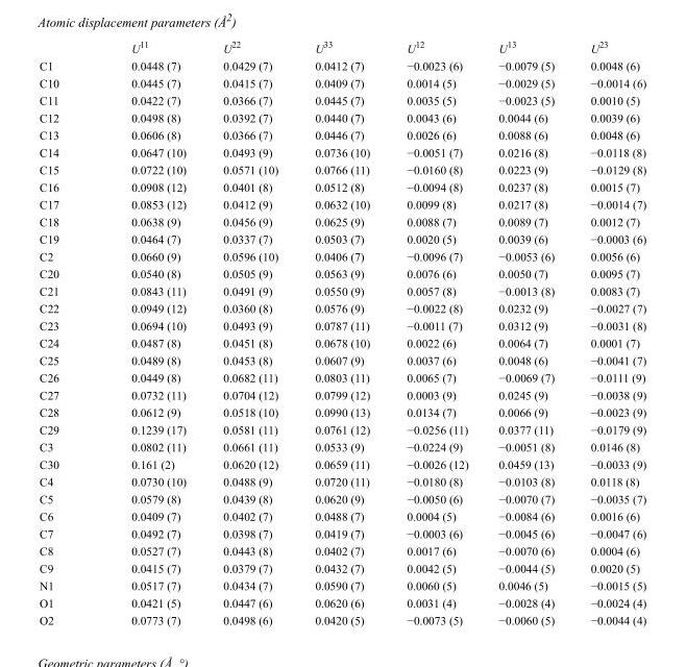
<table><thead><tr><td></td><td>U<sup>11</sup></td><td>U<sup>22</sup></td><td>U<sup>33</sup></td><td>U<sup>12</sup></td><td>U<sup>13</sup></td><td>U<sup>23</sup></td></tr></thead><tbody><tr><td>C1</td><td>0.0448 (7)</td><td>0.0429 (7)</td><td>0.0412 (7)</td><td>−0.0023 (6)</td><td>−0.0079 (5)</td><td>0.0048 (6)</td></tr><tr><td>C10</td><td>0.0445 (7)</td><td>0.0415 (7)</td><td>0.0409 (7)</td><td>0.0014 (5)</td><td>−0.0029 (5)</td><td>−0.0014 (6)</td></tr><tr><td>C11</td><td>0.0422 (7)</td><td>0.0366 (7)</td><td>0.0445 (7)</td><td>0.0035 (5)</td><td>−0.0023 (5)</td><td>0.0010 (5)</td></tr><tr><td>C12</td><td>0.0498 (8)</td><td>0.0392 (7)</td><td>0.0440 (7)</td><td>0.0043 (6)</td><td>0.0044 (6)</td><td>0.0039 (6)</td></tr><tr><td>C13</td><td>0.0606 (8)</td><td>0.0366 (7)</td><td>0.0446 (7)</td><td>0.0026 (6)</td><td>0.0088 (6)</td><td>0.0048 (6)</td></tr><tr><td>C14</td><td>0.0647 (10)</td><td>0.0493 (9)</td><td>0.0736 (10)</td><td>−0.0051 (7)</td><td>0.0216 (8)</td><td>−0.0118 (8)</td></tr><tr><td>C15</td><td>0.0722 (10)</td><td>0.0571 (10)</td><td>0.0766 (11)</td><td>−0.0160 (8)</td><td>0.0223 (9)</td><td>−0.0129 (8)</td></tr><tr><td>C16</td><td>0.0908 (12)</td><td>0.0401 (8)</td><td>0.0512 (8)</td><td>−0.0094 (8)</td><td>0.0237 (8)</td><td>0.0015 (7)</td></tr><tr><td>C17</td><td>0.0853 (12)</td><td>0.0412 (9)</td><td>0.0632 (10)</td><td>0.0099 (8)</td><td>0.0217 (8)</td><td>−0.0014 (7)</td></tr><tr><td>C18</td><td>0.0638 (9)</td><td>0.0456 (9)</td><td>0.0625 (9)</td><td>0.0088 (7)</td><td>0.0089 (7)</td><td>0.0012 (7)</td></tr><tr><td>C19</td><td>0.0464 (7)</td><td>0.0337 (7)</td><td>0.0503 (7)</td><td>0.0020 (5)</td><td>0.0039 (6)</td><td>−0.0003 (6)</td></tr><tr><td>C2</td><td>0.0660 (9)</td><td>0.0596 (10)</td><td>0.0406 (7)</td><td>−0.0096 (7)</td><td>−0.0053 (6)</td><td>0.0056 (6)</td></tr><tr><td>C20</td><td>0.0540 (8)</td><td>0.0505 (9)</td><td>0.0563 (9)</td><td>0.0076 (6)</td><td>0.0050 (7)</td><td>0.0095 (7)</td></tr><tr><td>C21</td><td>0.0843 (11)</td><td>0.0491 (9)</td><td>0.0550 (9)</td><td>0.0057 (8)</td><td>−0.0013 (8)</td><td>0.0083 (7)</td></tr><tr><td>C22</td><td>0.0949 (12)</td><td>0.0360 (8)</td><td>0.0576 (9)</td><td>−0.0022 (8)</td><td>0.0232 (9)</td><td>−0.0027 (7)</td></tr><tr><td>C23</td><td>0.0694 (10)</td><td>0.0493 (9)</td><td>0.0787 (11)</td><td>−0.0011 (7)</td><td>0.0312 (9)</td><td>−0.0031 (8)</td></tr><tr><td>C24</td><td>0.0487 (8)</td><td>0.0451 (8)</td><td>0.0678 (10)</td><td>0.0022 (6)</td><td>0.0064 (7)</td><td>0.0001 (7)</td></tr><tr><td>C25</td><td>0.0489 (8)</td><td>0.0453 (8)</td><td>0.0607 (9)</td><td>0.0037 (6)</td><td>0.0048 (6)</td><td>−0.0041 (7)</td></tr><tr><td>C26</td><td>0.0449 (8)</td><td>0.0682 (11)</td><td>0.0803 (11)</td><td>0.0065 (7)</td><td>−0.0069 (7)</td><td>−0.0111 (9)</td></tr><tr><td>C27</td><td>0.0732 (11)</td><td>0.0704 (12)</td><td>0.0799 (12)</td><td>0.0003 (9)</td><td>0.0245 (9)</td><td>−0.0038 (9)</td></tr><tr><td>C28</td><td>0.0612 (9)</td><td>0.0518 (10)</td><td>0.0990 (13)</td><td>0.0134 (7)</td><td>0.0066 (9)</td><td>−0.0023 (9)</td></tr><tr><td>C29</td><td>0.1239 (17)</td><td>0.0581 (11)</td><td>0.0761 (12)</td><td>−0.0256 (11)</td><td>0.0377 (11)</td><td>−0.0179 (9)</td></tr><tr><td>C3</td><td>0.0802 (11)</td><td>0.0661 (11)</td><td>0.0533 (9)</td><td>−0.0224 (9)</td><td>−0.0051 (8)</td><td>0.0146 (8)</td></tr><tr><td>C30</td><td>0.161 (2)</td><td>0.0620 (12)</td><td>0.0659 (11)</td><td>−0.0026 (12)</td><td>0.0459 (13)</td><td>−0.0033 (9)</td></tr><tr><td>C4</td><td>0.0730 (10)</td><td>0.0488 (9)</td><td>0.0720 (11)</td><td>−0.0180 (8)</td><td>−0.0103 (8)</td><td>0.0118 (8)</td></tr><tr><td>C5</td><td>0.0579 (8)</td><td>0.0439 (8)</td><td>0.0620 (9)</td><td>−0.0050 (6)</td><td>−0.0070 (7)</td><td>−0.0035 (7)</td></tr><tr><td>C6</td><td>0.0409 (7)</td><td>0.0402 (7)</td><td>0.0488 (7)</td><td>0.0004 (5)</td><td>−0.0084 (6)</td><td>0.0016 (6)</td></tr><tr><td>C7</td><td>0.0492 (7)</td><td>0.0398 (7)</td><td>0.0419 (7)</td><td>−0.0003 (6)</td><td>−0.0045 (6)</td><td>−0.0047 (6)</td></tr><tr><td>C8</td><td>0.0527 (7)</td><td>0.0443 (8)</td><td>0.0402 (7)</td><td>0.0017 (6)</td><td>−0.0070 (6)</td><td>0.0004 (6)</td></tr><tr><td>C9</td><td>0.0415 (7)</td><td>0.0379 (7)</td><td>0.0432 (7)</td><td>0.0042 (5)</td><td>−0.0044 (5)</td><td>0.0020 (5)</td></tr><tr><td>N1</td><td>0.0517 (7)</td><td>0.0434 (7)</td><td>0.0590 (7)</td><td>0.0060 (5)</td><td>0.0046 (5)</td><td>−0.0015 (5)</td></tr><tr><td>O1</td><td>0.0421 (5)</td><td>0.0447 (6)</td><td>0.0620 (6)</td><td>0.0031 (4)</td><td>−0.0028 (4)</td><td>−0.0024 (4)</td></tr><tr><td>O2</td><td>0.0773 (7)</td><td>0.0498 (6)</td><td>0.0420 (5)</td><td>−0.0073 (5)</td><td>−0.0060 (5)</td><td>−0.0044 (4)</td></tr></tbody></table>